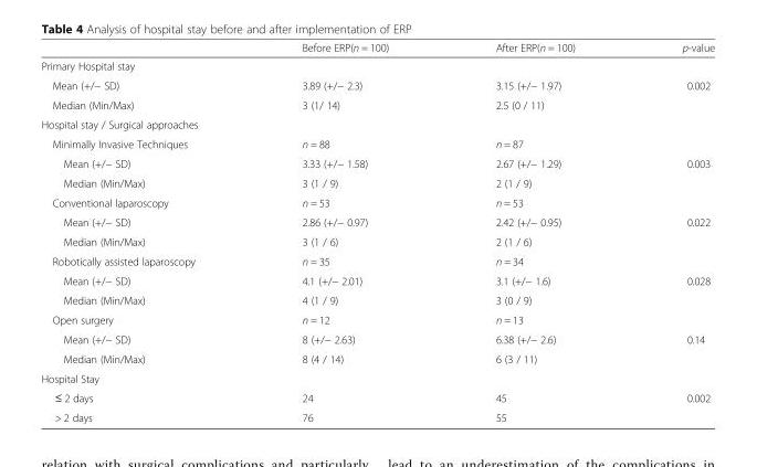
<table><thead><tr><td></td><td>Before ERP(n = 100)</td><td>After ERP(n = 100)</td><td>p-value</td></tr></thead><tbody><tr><td colspan="4">Primary Hospital stay</td></tr><tr><td>Mean (+/− SD)</td><td>3.89 (+/− 2.3)</td><td>3.15 (+/− 1.97)</td><td>0.002</td></tr><tr><td>Median (Min/Max)</td><td>3 (1/ 14)</td><td>2.5 (0 / 11)</td><td></td></tr><tr><td colspan="4">Hospital stay / Surgical approaches</td></tr><tr><td>Minimally Invasive Techniques</td><td>n = 88</td><td>n = 87</td><td></td></tr><tr><td>Mean (+/− SD)</td><td>3.33 (+/− 1.58)</td><td>2.67 (+/− 1.29)</td><td>0.003</td></tr><tr><td>Median (Min/Max)</td><td>3 (1 / 9)</td><td>2 (1 / 9)</td><td></td></tr><tr><td>Conventional laparoscopy</td><td>n = 53</td><td>n = 53</td><td></td></tr><tr><td>Mean (+/− SD)</td><td>2.86 (+/− 0.97)</td><td>2.42 (+/− 0.95)</td><td>0.022</td></tr><tr><td>Median (Min/Max)</td><td>3 (1 / 6)</td><td>2 (1 / 6)</td><td></td></tr><tr><td>Robotically assisted laparoscopy</td><td>n = 35</td><td>n = 34</td><td></td></tr><tr><td>Mean (+/− SD)</td><td>4.1 (+/− 2.01)</td><td>3.1 (+/− 1.6)</td><td>0.028</td></tr><tr><td>Median (Min/Max)</td><td>4 (1 / 9)</td><td>3 (0 / 9)</td><td></td></tr><tr><td>Open surgery</td><td>n = 12</td><td>n = 13</td><td></td></tr><tr><td>Mean (+/− SD)</td><td>8 (+/− 2.63)</td><td>6.38 (+/− 2.6)</td><td>0.14</td></tr><tr><td>Median (Min/Max)</td><td>8 (4 / 14)</td><td>6 (3 / 11)</td><td></td></tr><tr><td colspan="4">Hospital Stay</td></tr><tr><td>≤ 2 days</td><td>24</td><td>45</td><td>0.002</td></tr><tr><td>&gt; 2 days</td><td>76</td><td>55</td><td></td></tr></tbody></table>